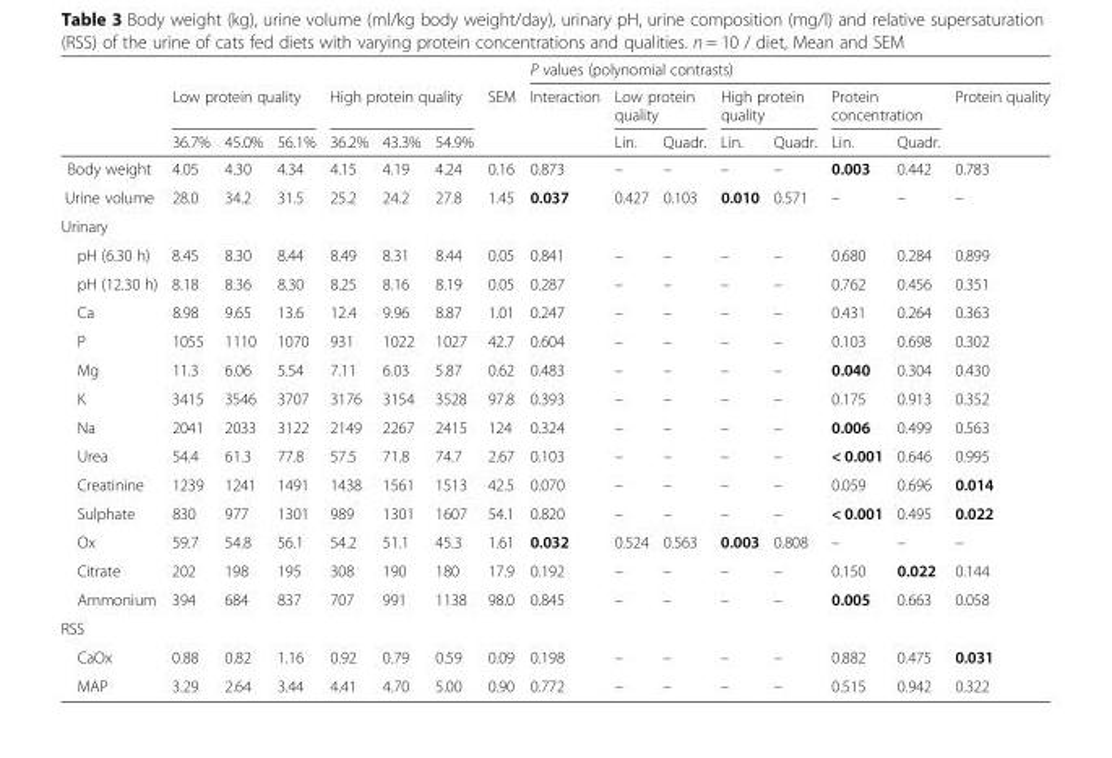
<table><thead><tr><td rowspan="3"></td><td></td><td></td><td></td><td></td><td></td><td></td><td rowspan="3">SEM</td><td colspan="8">P values (polynomial contrasts)</td></tr><tr><td colspan="3">Low protein quality</td><td colspan="3">High protein quality</td><td rowspan="2">Interaction</td><td colspan="2">Low protein quality</td><td colspan="2">High protein quality</td><td colspan="2">Protein concentration</td><td rowspan="2">Protein quality</td></tr><tr><td>36.7%</td><td>45.0%</td><td>56.1%</td><td>36.2%</td><td>43.3%</td><td>54.9%</td><td>Lin.</td><td>Quadr.</td><td>Lin.</td><td>Quadr.</td><td>Lin.</td><td>Quadr.</td></tr></thead><tbody><tr><td>Body weight</td><td>4.05</td><td>4.30</td><td>4.34</td><td>4.15</td><td>4.19</td><td>4.24</td><td>0.16</td><td>0.873</td><td>–</td><td>–</td><td>–</td><td>–</td><td>0.003</td><td>0.442</td><td>0.783</td></tr><tr><td>Urine volume</td><td>28.0</td><td>34.2</td><td>31.5</td><td>25.2</td><td>24.2</td><td>27.8</td><td>1.45</td><td>0.037</td><td>0.427</td><td>0.103</td><td>0.010</td><td>0.571</td><td>–</td><td>–</td><td>–</td></tr><tr><td colspan="16">Urinary</td></tr><tr><td>pH (6.30 h)</td><td>8.45</td><td>8.30</td><td>8.44</td><td>8.49</td><td>8.31</td><td>8.44</td><td>0.05</td><td>0.841</td><td>–</td><td>–</td><td>–</td><td>–</td><td>0.680</td><td>0.284</td><td>0.899</td></tr><tr><td>pH (12.30 h)</td><td>8.18</td><td>8.36</td><td>8.30</td><td>8.25</td><td>8.16</td><td>8.19</td><td>0.05</td><td>0.287</td><td>–</td><td>–</td><td>–</td><td>–</td><td>0.762</td><td>0.456</td><td>0.351</td></tr><tr><td>Ca</td><td>8.98</td><td>9.65</td><td>13.6</td><td>12.4</td><td>9.96</td><td>8.87</td><td>1.01</td><td>0.247</td><td>–</td><td>–</td><td>–</td><td>–</td><td>0.431</td><td>0.264</td><td>0.363</td></tr><tr><td>P</td><td>1055</td><td>1110</td><td>1070</td><td>931</td><td>1022</td><td>1027</td><td>42.7</td><td>0.604</td><td>–</td><td>–</td><td>–</td><td>–</td><td>0.103</td><td>0.698</td><td>0.302</td></tr><tr><td>Mg</td><td>11.3</td><td>6.06</td><td>5.54</td><td>7.11</td><td>6.03</td><td>5.87</td><td>0.62</td><td>0.483</td><td>–</td><td>–</td><td>–</td><td>–</td><td>0.040</td><td>0.304</td><td>0.430</td></tr><tr><td>K</td><td>3415</td><td>3546</td><td>3707</td><td>3176</td><td>3154</td><td>3528</td><td>97.8</td><td>0.393</td><td>–</td><td>–</td><td>–</td><td>–</td><td>0.175</td><td>0.913</td><td>0.352</td></tr><tr><td>Na</td><td>2041</td><td>2033</td><td>3122</td><td>2149</td><td>2267</td><td>2415</td><td>124</td><td>0.324</td><td>–</td><td>–</td><td>–</td><td>–</td><td>0.006</td><td>0.499</td><td>0.563</td></tr><tr><td>Urea</td><td>54.4</td><td>61.3</td><td>77.8</td><td>57.5</td><td>71.8</td><td>74.7</td><td>2.67</td><td>0.103</td><td>–</td><td>–</td><td>–</td><td>–</td><td>&lt; 0.001</td><td>0.646</td><td>0.995</td></tr><tr><td>Creatinine</td><td>1239</td><td>1241</td><td>1491</td><td>1438</td><td>1561</td><td>1513</td><td>42.5</td><td>0.070</td><td>–</td><td>–</td><td>–</td><td>–</td><td>0.059</td><td>0.696</td><td>0.014</td></tr><tr><td>Sulphate</td><td>830</td><td>977</td><td>1301</td><td>989</td><td>1301</td><td>1607</td><td>54.1</td><td>0.820</td><td>–</td><td>–</td><td>–</td><td>–</td><td>&lt; 0.001</td><td>0.495</td><td>0.022</td></tr><tr><td>Ox</td><td>59.7</td><td>54.8</td><td>56.1</td><td>54.2</td><td>51.1</td><td>45.3</td><td>1.61</td><td>0.032</td><td>0.524</td><td>0.563</td><td>0.003</td><td>0.808</td><td>–</td><td>–</td><td>–</td></tr><tr><td>Citrate</td><td>202</td><td>198</td><td>195</td><td>308</td><td>190</td><td>180</td><td>17.9</td><td>0.192</td><td>–</td><td>–</td><td>–</td><td>–</td><td>0.150</td><td>0.022</td><td>0.144</td></tr><tr><td>Ammonium</td><td>394</td><td>684</td><td>837</td><td>707</td><td>991</td><td>1138</td><td>98.0</td><td>0.845</td><td>–</td><td>–</td><td>–</td><td>–</td><td>0.005</td><td>0.663</td><td>0.058</td></tr><tr><td colspan="16">RSS</td></tr><tr><td>CaOx</td><td>0.88</td><td>0.82</td><td>1.16</td><td>0.92</td><td>0.79</td><td>0.59</td><td>0.09</td><td>0.198</td><td>–</td><td>–</td><td>–</td><td>–</td><td>0.882</td><td>0.475</td><td>0.031</td></tr><tr><td>MAP</td><td>3.29</td><td>2.64</td><td>3.44</td><td>4.41</td><td>4.70</td><td>5.00</td><td>0.90</td><td>0.772</td><td>–</td><td>–</td><td>–</td><td>–</td><td>0.515</td><td>0.942</td><td>0.322</td></tr></tbody></table>